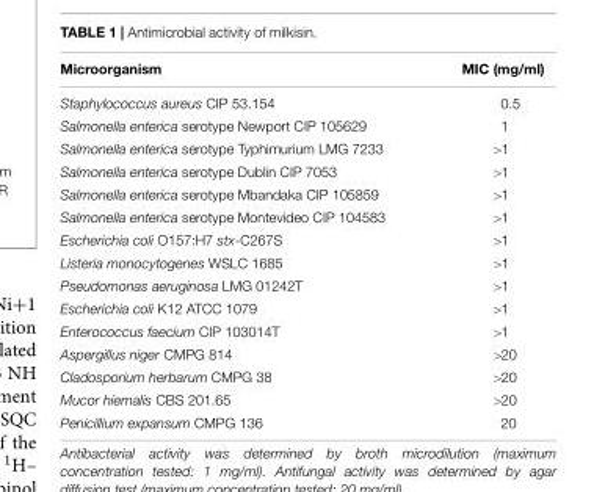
<table><thead><tr><td>Microorganism</td><td>MIC (mg/ml)</td></tr></thead><tbody><tr><td>Staphylococcus aureus CIP 53.154</td><td>0.5</td></tr><tr><td>Salmonella enterica serotype Newport CIP 105629</td><td>1</td></tr><tr><td>Salmonella enterica serotype Typhimurium LMG 7233</td><td>&gt;1</td></tr><tr><td>Salmonella enterica serotype Dublin CIP 7053</td><td>&gt;1</td></tr><tr><td>Salmonella enterica serotype Mbandaka CIP 105859</td><td>&gt;1</td></tr><tr><td>Salmonella enterica serotype Montevideo CIP 104583</td><td>&gt;1</td></tr><tr><td>Escherichia coli O157:H7 stx-C267S</td><td>&gt;1</td></tr><tr><td>Listeria monocytogenes WSLC 1685</td><td>&gt;1</td></tr><tr><td>Pseudomonas aeruginosa LMG 01242T</td><td>&gt;1</td></tr><tr><td>Escherichia coli K12 ATCC 1079</td><td>&gt;1</td></tr><tr><td>Enterococcus faecium CIP 103014T</td><td>&gt;1</td></tr><tr><td>Aspergillus niger CMPG 814</td><td>&gt;20</td></tr><tr><td>Cladosporium herbarum CMPG 38</td><td>&gt;20</td></tr><tr><td>Mucor hiemalis CBS 201.65</td><td>&gt;20</td></tr><tr><td>Penicillium expansum CMPG 136</td><td>20</td></tr></tbody></table>